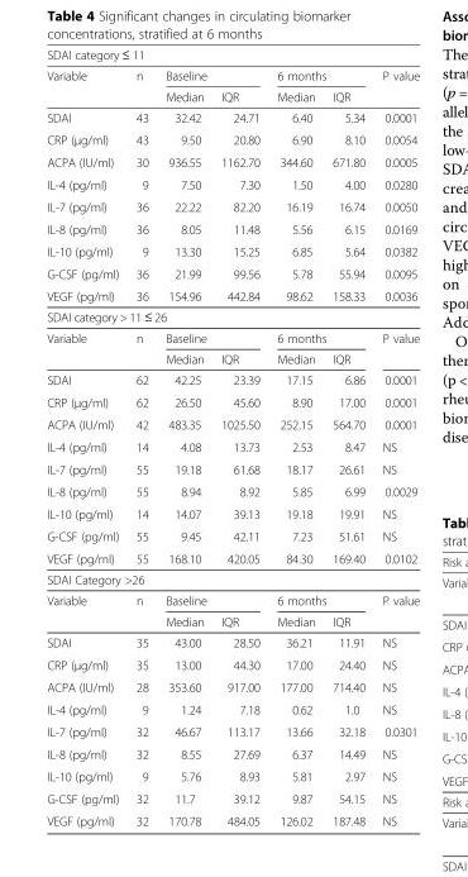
<table><thead><tr><td colspan="7">SDAI category ≤ 11</td></tr><tr><td rowspan="2">Variable</td><td rowspan="2">n</td><td colspan="2">Baseline</td><td colspan="2">6 months</td><td rowspan="2">P value</td></tr><tr><td>Median</td><td>IQR</td><td>Median</td><td>IQR</td></tr></thead><tbody><tr><td>SDAI</td><td>43</td><td>32.42</td><td>24.71</td><td>6.40</td><td>5.34</td><td>0.0001</td></tr><tr><td>CRP (μg/ml)</td><td>43</td><td>9.50</td><td>20.80</td><td>6.90</td><td>8.10</td><td>0.0054</td></tr><tr><td>ACPA (IU/ml)</td><td>30</td><td>936.55</td><td>1162.70</td><td>344.60</td><td>671.80</td><td>0.0005</td></tr><tr><td>IL-4 (pg/ml)</td><td>9</td><td>7.50</td><td>7.30</td><td>1.50</td><td>4.00</td><td>0.0280</td></tr><tr><td>IL-7 (pg/ml)</td><td>36</td><td>22.22</td><td>82.20</td><td>16.19</td><td>16.74</td><td>0.0050</td></tr><tr><td>IL-8 (pg/ml)</td><td>36</td><td>8.05</td><td>11.48</td><td>5.56</td><td>6.15</td><td>0.0169</td></tr><tr><td>IL-10 (pg/ml)</td><td>9</td><td>13.30</td><td>15.25</td><td>6.85</td><td>5.64</td><td>0.0382</td></tr><tr><td>G-CSF (pg/ml)</td><td>36</td><td>21.99</td><td>99.56</td><td>5.78</td><td>55.94</td><td>0.0095</td></tr><tr><td>VEGF (pg/ml)</td><td>36</td><td>154.96</td><td>442.84</td><td>98.62</td><td>158.33</td><td>0.0036</td></tr><tr><td colspan="7">SDAI category &gt; 11 ≤ 26</td></tr><tr><td rowspan="2">Variable</td><td rowspan="2">n</td><td colspan="2">Baseline</td><td colspan="2">6 months</td><td rowspan="2">P value</td></tr><tr><td>Median</td><td>IQR</td><td>Median</td><td>IQR</td></tr><tr><td>SDAI</td><td>62</td><td>42.25</td><td>23.39</td><td>17.15</td><td>6.86</td><td>0.0001</td></tr><tr><td>CRP (μg/ml)</td><td>62</td><td>26.50</td><td>45.60</td><td>8.90</td><td>17.00</td><td>0.0001</td></tr><tr><td>ACPA (IU/ml)</td><td>42</td><td>483.35</td><td>1025.50</td><td>252.15</td><td>564.70</td><td>0.0001</td></tr><tr><td>IL-4 (pg/ml)</td><td>14</td><td>4.08</td><td>13.73</td><td>2.53</td><td>8.47</td><td>NS</td></tr><tr><td>IL-7 (pg/ml)</td><td>55</td><td>19.18</td><td>61.68</td><td>18.17</td><td>26.61</td><td>NS</td></tr><tr><td>IL-8 (pg/ml)</td><td>55</td><td>8.94</td><td>8.92</td><td>5.85</td><td>6.99</td><td>0.0029</td></tr><tr><td>IL-10 (pg/ml)</td><td>14</td><td>14.07</td><td>39.13</td><td>19.18</td><td>19.91</td><td>NS</td></tr><tr><td>G-CSF (pg/ml)</td><td>55</td><td>9.45</td><td>42.11</td><td>7.23</td><td>51.61</td><td>NS</td></tr><tr><td>VEGF (pg/ml)</td><td>55</td><td>168.10</td><td>420.05</td><td>84.30</td><td>169.40</td><td>0.0102</td></tr><tr><td colspan="7">SDAI Category &gt;26</td></tr><tr><td rowspan="2">Variable</td><td rowspan="2">n</td><td colspan="2">Baseline</td><td colspan="2">6 months</td><td rowspan="2">P value</td></tr><tr><td>Median</td><td>IQR</td><td>Median</td><td>IQR</td></tr><tr><td>SDAI</td><td>35</td><td>43.00</td><td>28.50</td><td>36.21</td><td>11.91</td><td>NS</td></tr><tr><td>CRP (μg/ml)</td><td>35</td><td>13.00</td><td>44.30</td><td>17.00</td><td>24.40</td><td>NS</td></tr><tr><td>ACPA (IU/ml)</td><td>28</td><td>353.60</td><td>917.00</td><td>177.00</td><td>714.40</td><td>NS</td></tr><tr><td>IL-4 (pg/ml)</td><td>9</td><td>1.24</td><td>7.18</td><td>0.62</td><td>1.0</td><td>NS</td></tr><tr><td>IL-7 (pg/ml)</td><td>32</td><td>46.67</td><td>113.17</td><td>13.66</td><td>32.18</td><td>0.0301</td></tr><tr><td>IL-8 (pg/ml)</td><td>32</td><td>8.55</td><td>27.69</td><td>6.37</td><td>14.49</td><td>NS</td></tr><tr><td>IL-10 (pg/ml)</td><td>9</td><td>5.76</td><td>8.93</td><td>5.81</td><td>2.97</td><td>NS</td></tr><tr><td>G-CSF (pg/ml)</td><td>32</td><td>11.7</td><td>39.12</td><td>9.87</td><td>54.15</td><td>NS</td></tr><tr><td>VEGF (pg/ml)</td><td>32</td><td>170.78</td><td>484.05</td><td>126.02</td><td>187.48</td><td>NS</td></tr></tbody></table>